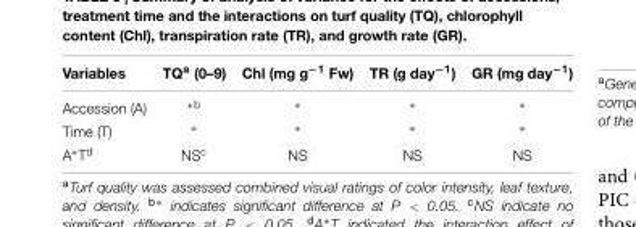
<table><thead><tr><td>Variables</td><td>TQ<sup>a</sup> (0–9)</td><td>Chl (mg g<sup>−1</sup> Fw)</td><td>TR (g day<sup>−1</sup>)</td><td>GR (mg day<sup>−1</sup>)</td></tr></thead><tbody><tr><td>Accession (A)</td><td><sup>∗b</sup></td><td>∗</td><td>∗</td><td>∗</td></tr><tr><td>Time (T)</td><td>∗</td><td>∗</td><td>∗</td><td>∗</td></tr><tr><td>A∗T<sup>d</sup></td><td>NS<sup>c</sup></td><td>NS</td><td>NS</td><td>NS</td></tr></tbody></table>